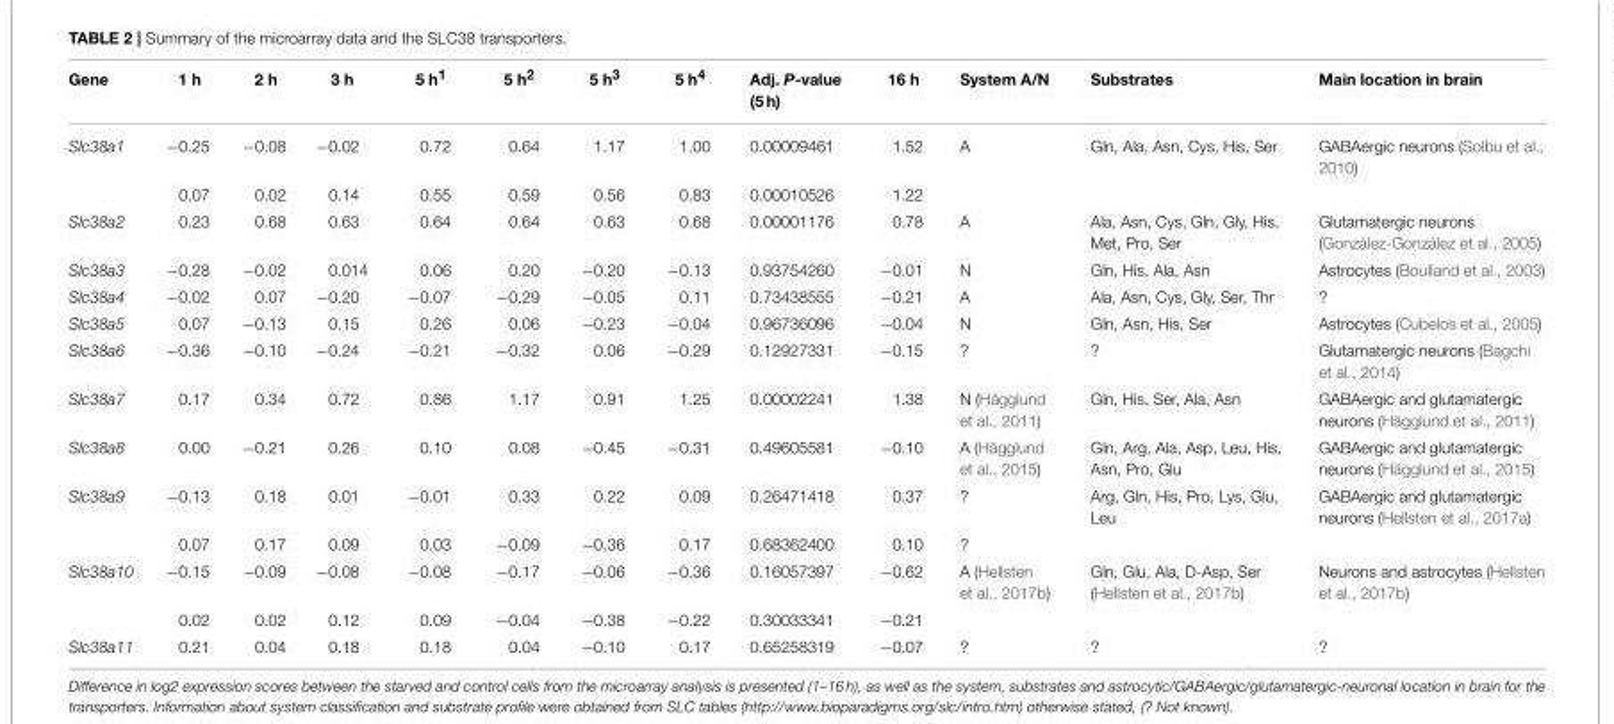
<table><thead><tr><td>Gene</td><td>1 h</td><td>2 h</td><td>3 h</td><td>5 h<sup>1</sup></td><td>5 h<sup>2</sup></td><td>5 h<sup>3</sup></td><td>5 h<sup>4</sup></td><td>Adj. P-value (5 h)</td><td>16 h</td><td>System A/N</td><td>Substrates</td><td>Main location in brain</td></tr></thead><tbody><tr><td rowspan="2">Slc38a1</td><td>−0.25</td><td>−0.08</td><td>−0.02</td><td>0.72</td><td>0.64</td><td>1.17</td><td>1.00</td><td>0.00009461</td><td>1.52</td><td>A</td><td>Gln, Ala, Asn, Cys, His, Ser</td><td>GABAergic neurons (Solbu et al., 2010)</td></tr><tr><td>0.07</td><td>0.02</td><td>0.14</td><td>0.55</td><td>0.59</td><td>0.56</td><td>0.83</td><td>0.00010526</td><td>1.22</td><td></td><td></td><td></td></tr><tr><td>Slc38a2</td><td>0.23</td><td>0.68</td><td>0.63</td><td>0.64</td><td>0.64</td><td>0.63</td><td>0.68</td><td>0.00001176</td><td>0.78</td><td>A</td><td>Ala, Asn, Cys, Gln, Gly, His, Met, Pro, Ser</td><td>Glutamatergic neurons (González-González et al., 2005)</td></tr><tr><td>Slc38a3</td><td>−0.28</td><td>−0.02</td><td>0.014</td><td>0.06</td><td>0.20</td><td>−0.20</td><td>−0.13</td><td>0.93754260</td><td>−0.01</td><td>N</td><td>Gln, His, Ala, Asn</td><td>Astrocytes (Boulland et al., 2003)</td></tr><tr><td>Slc38a4</td><td>−0.02</td><td>0.07</td><td>−0.20</td><td>−0.07</td><td>−0.29</td><td>−0.05</td><td>0.11</td><td>0.73438555</td><td>−0.21</td><td>A</td><td>Ala, Asn, Cys, Gly, Ser, Thr</td><td>?</td></tr><tr><td>Slc38a5</td><td>0.07</td><td>−0.13</td><td>0.15</td><td>0.26</td><td>0.06</td><td>−0.23</td><td>−0.04</td><td>0.96736096</td><td>−0.04</td><td>N</td><td>Gln, Asn, His, Ser</td><td>Astrocytes (Cubelos et al., 2005)</td></tr><tr><td>Slc38a6</td><td>−0.36</td><td>−0.10</td><td>−0.24</td><td>−0.21</td><td>−0.32</td><td>0.06</td><td>−0.29</td><td>0.12927331</td><td>−0.15</td><td>?</td><td>?</td><td>Glutamatergic neurons (Bagchi et al., 2014)</td></tr><tr><td>Slc38a7</td><td>0.17</td><td>0.34</td><td>0.72</td><td>0.86</td><td>1.17</td><td>0.91</td><td>1.25</td><td>0.00002241</td><td>1.38</td><td>N (Hägglund et al., 2011)</td><td>Gln, His, Ser, Ala, Asn</td><td>GABAergic and glutamatergic neurons (Hägglund et al., 2011)</td></tr><tr><td>Slc38a8</td><td>0.00</td><td>−0.21</td><td>0.26</td><td>0.10</td><td>0.08</td><td>−0.45</td><td>−0.31</td><td>0.49605581</td><td>−0.10</td><td>A (Hägglund et al., 2015)</td><td>Gln, Arg, Ala, Asp, Leu, His, Asn, Pro, Glu</td><td>GABAergic and glutamatergic neurons (Hägglund et al., 2015)</td></tr><tr><td rowspan="2">Slc38a9</td><td>−0.13</td><td>0.18</td><td>0.01</td><td>−0.01</td><td>0.33</td><td>0.22</td><td>0.09</td><td>0.26471418</td><td>0.37</td><td>?</td><td>Arg, Gln, His, Pro, Lys, Glu, Leu</td><td>GABAergic and glutamatergic neurons (Hellsten et al., 2017a)</td></tr><tr><td>0.07</td><td>0.17</td><td>0.09</td><td>0.03</td><td>−0.09</td><td>−0.36</td><td>0.17</td><td>0.68362400</td><td>0.10</td><td>?</td><td></td><td></td></tr><tr><td rowspan="2">Slc38a10</td><td>−0.15</td><td>−0.09</td><td>−0.08</td><td>−0.08</td><td>−0.17</td><td>−0.06</td><td>−0.36</td><td>0.16057397</td><td>−0.62</td><td>A (Hellsten et al., 2017b)</td><td>Gln, Glu, Ala, D-Asp, Ser (Hellsten et al., 2017b)</td><td>Neurons and astrocytes (Hellsten et al., 2017b)</td></tr><tr><td>0.02</td><td>0.02</td><td>0.12</td><td>0.09</td><td>−0.04</td><td>−0.38</td><td>−0.22</td><td>0.30033341</td><td>−0.21</td><td></td><td></td><td></td></tr><tr><td>Slc38a11</td><td>0.21</td><td>0.04</td><td>0.18</td><td>0.18</td><td>0.04</td><td>−0.10</td><td>0.17</td><td>0.65258319</td><td>−0.07</td><td>?</td><td>?</td><td>?</td></tr></tbody></table>